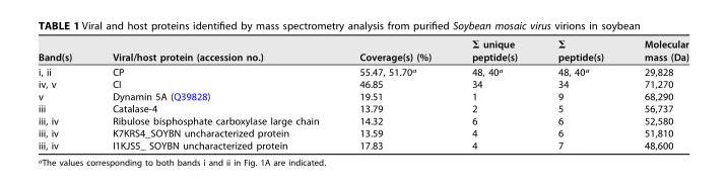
<table><thead><tr><td>Band(s)</td><td>Viral/host protein (accession no.)</td><td>Coverage(s) (%)</td><td>Σ unique peptide(s)</td><td>Σ peptide(s)</td><td>Molecular mass (Da)</td></tr></thead><tbody><tr><td>i, ii</td><td>CP</td><td>55.47, 51.70<sup>a</sup></td><td>48, 40<sup>a</sup></td><td>48, 40<sup>a</sup></td><td>29,828</td></tr><tr><td>iv, v</td><td>CI</td><td>46.85</td><td>34</td><td>34</td><td>71,270</td></tr><tr><td>v</td><td>Dynamin 5A (Q39828)</td><td>19.51</td><td>1</td><td>9</td><td>68,290</td></tr><tr><td>iii</td><td>Catalase-4</td><td>13.79</td><td>2</td><td>5</td><td>56,737</td></tr><tr><td>iii, iv</td><td>Ribulose bisphosphate carboxylase large chain</td><td>14.32</td><td>6</td><td>6</td><td>52,580</td></tr><tr><td>iii, iv</td><td>K7KRS4_SOYBN uncharacterized protein</td><td>13.59</td><td>4</td><td>6</td><td>51,810</td></tr><tr><td>iii, iv</td><td>I1KJS5_ SOYBN uncharacterized protein</td><td>17.83</td><td>4</td><td>7</td><td>48,600</td></tr></tbody></table>